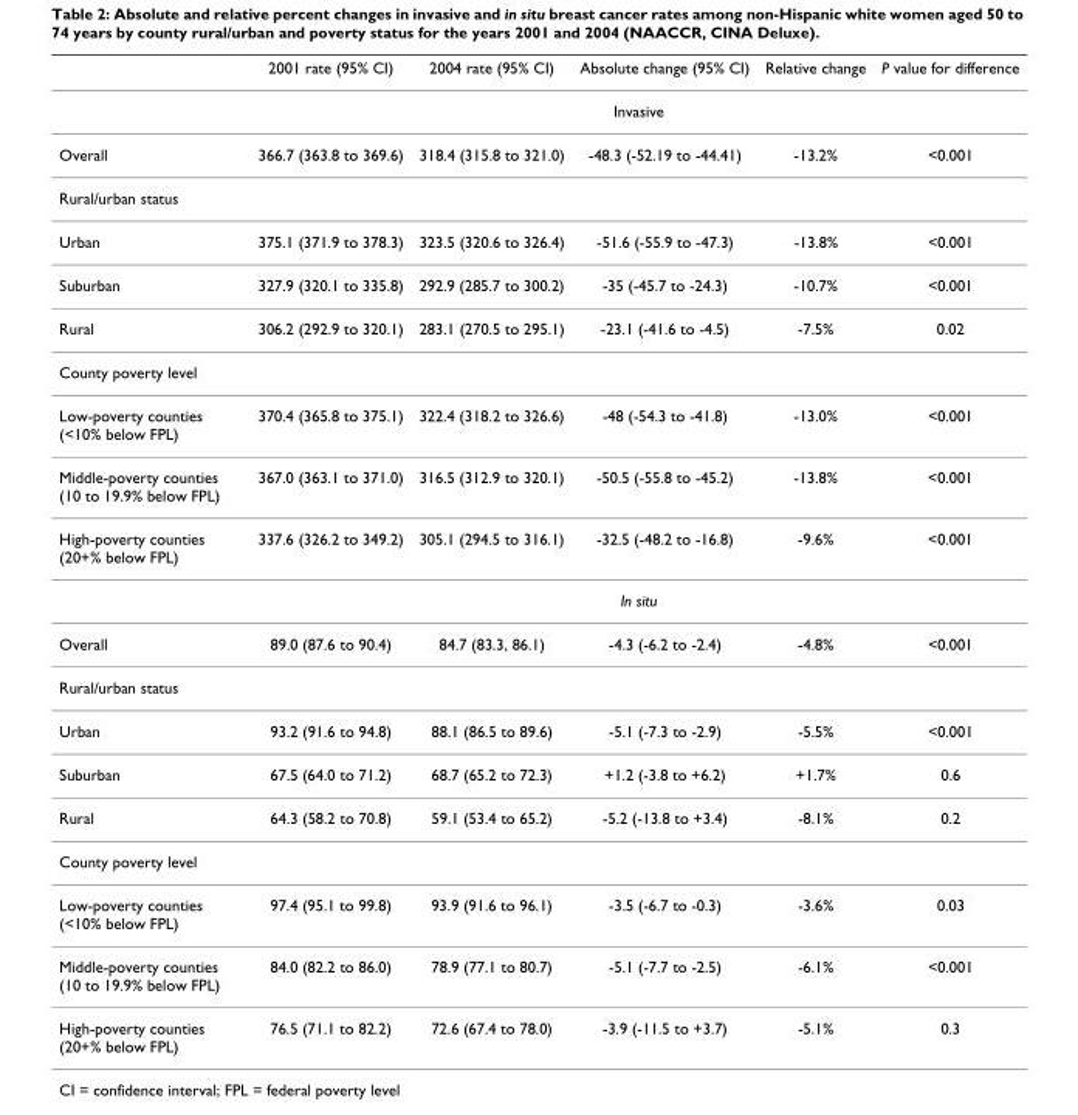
<table><thead><tr><td></td><td>2001 rate (95% CI)</td><td>2004 rate (95% CI)</td><td>Absolute change (95% CI)</td><td>Relative change</td><td>P value for difference</td></tr></thead><tbody><tr><td></td><td colspan="5">Invasive</td></tr><tr><td>Overall</td><td>366.7 (363.8 to 369.6)</td><td>318.4 (315.8 to 321.0)</td><td>-48.3 (-52.19 to -44.41)</td><td>-13.2%</td><td>&lt;0.001</td></tr><tr><td colspan="6">Rural/urban status</td></tr><tr><td>Urban</td><td>375.1 (371.9 to 378.3)</td><td>323.5 (320.6 to 326.4)</td><td>-51.6 (-55.9 to -47.3)</td><td>-13.8%</td><td>&lt;0.001</td></tr><tr><td>Suburban</td><td>327.9 (320.1 to 335.8)</td><td>292.9 (285.7 to 300.2)</td><td>-35 (-45.7 to -24.3)</td><td>-10.7%</td><td>&lt;0.001</td></tr><tr><td>Rural</td><td>306.2 (292.9 to 320.1)</td><td>283.1 (270.5 to 295.1)</td><td>-23.1 (-41.6 to -4.5)</td><td>-7.5%</td><td>0.02</td></tr><tr><td colspan="6">County poverty level</td></tr><tr><td>Low-poverty counties (&lt;10% below FPL)</td><td>370.4 (365.8 to 375.1)</td><td>322.4 (318.2 to 326.6)</td><td>-48 (-54.3 to -41.8)</td><td>-13.0%</td><td>&lt;0.001</td></tr><tr><td>Middle-poverty counties (10 to 19.9% below FPL)</td><td>367.0 (363.1 to 371.0)</td><td>316.5 (312.9 to 320.1)</td><td>-50.5 (-55.8 to -45.2)</td><td>-13.8%</td><td>&lt;0.001</td></tr><tr><td rowspan="2">High-poverty counties (20+% below FPL)</td><td>337.6 (326.2 to 349.2)</td><td>305.1 (294.5 to 316.1)</td><td>-32.5 (-48.2 to -16.8)</td><td>-9.6%</td><td>&lt;0.001</td></tr><tr><td colspan="5">In situ</td></tr><tr><td>Overall</td><td>89.0 (87.6 to 90.4)</td><td>84.7 (83.3, 86.1)</td><td>-4.3 (-6.2 to -2.4)</td><td>-4.8%</td><td>&lt;0.001</td></tr><tr><td colspan="6">Rural/urban status</td></tr><tr><td>Urban</td><td>93.2 (91.6 to 94.8)</td><td>88.1 (86.5 to 89.6)</td><td>-5.1 (-7.3 to -2.9)</td><td>-5.5%</td><td>&lt;0.001</td></tr><tr><td>Suburban</td><td>67.5 (64.0 to 71.2)</td><td>68.7 (65.2 to 72.3)</td><td>+1.2 (-3.8 to +6.2)</td><td>+1.7%</td><td>0.6</td></tr><tr><td>Rural</td><td>64.3 (58.2 to 70.8)</td><td>59.1 (53.4 to 65.2)</td><td>-5.2 (-13.8 to +3.4)</td><td>-8.1%</td><td>0.2</td></tr><tr><td colspan="6">County poverty level</td></tr><tr><td>Low-poverty counties (&lt;10% below FPL)</td><td>97.4 (95.1 to 99.8)</td><td>93.9 (91.6 to 96.1)</td><td>-3.5 (-6.7 to -0.3)</td><td>-3.6%</td><td>0.03</td></tr><tr><td>Middle-poverty counties (10 to 19.9% below FPL)</td><td>84.0 (82.2 to 86.0)</td><td>78.9 (77.1 to 80.7)</td><td>-5.1 (-7.7 to -2.5)</td><td>-6.1%</td><td>&lt;0.001</td></tr><tr><td>High-poverty counties (20+% below FPL)</td><td>76.5 (71.1 to 82.2)</td><td>72.6 (67.4 to 78.0)</td><td>-3.9 (-11.5 to +3.7)</td><td>-5.1%</td><td>0.3</td></tr></tbody></table>